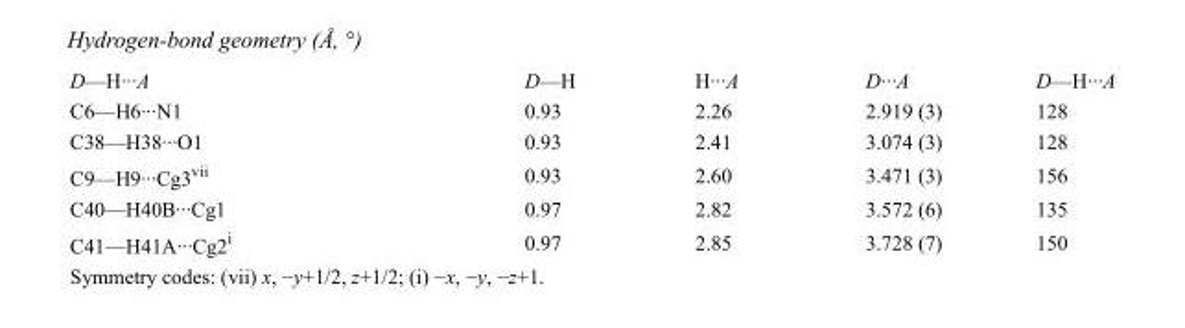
<table><tbody><tr><td>D—H···A</td><td>D—H</td><td>H···A</td><td>D···A</td><td>D—H···A</td></tr><tr><td>C6—H6···N1</td><td>0.93</td><td>2.26</td><td>2.919 (3)</td><td>128</td></tr><tr><td>C38—H38···O1</td><td>0.93</td><td>2.41</td><td>3.074 (3)</td><td>128</td></tr><tr><td>C9—H9···Cg3<sup>vii</sup></td><td>0.93</td><td>2.60</td><td>3.471 (3)</td><td>156</td></tr><tr><td>C40—H40B···Cg1</td><td>0.97</td><td>2.82</td><td>3.572 (6)</td><td>135</td></tr><tr><td>C41—H41A···Cg2<sup>i</sup></td><td>0.97</td><td>2.85</td><td>3.728 (7)</td><td>150</td></tr></tbody></table>